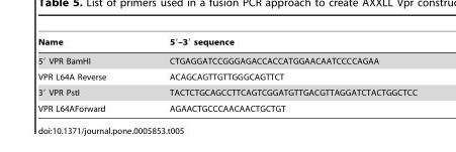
<table><thead><tr><td>Name</td><td>5′–3′ sequence</td></tr></thead><tbody><tr><td>5′ VPR BamHI</td><td>CTGAGGATCCGGGAGACCACCATGGAACAATCCCCAGAA</td></tr><tr><td>VPR L64A Reverse</td><td>ACAGCAGTTGTTGGGCAGTTCT</td></tr><tr><td>3′ VPR PstI</td><td>TACTCTGCAGCCTTCAGTCGGATGTTGACGTTAGGATCTACTGGCTCC</td></tr><tr><td>VPR L64AForward</td><td>AGAACTGCCCAACAACTGCTGT</td></tr></tbody></table>